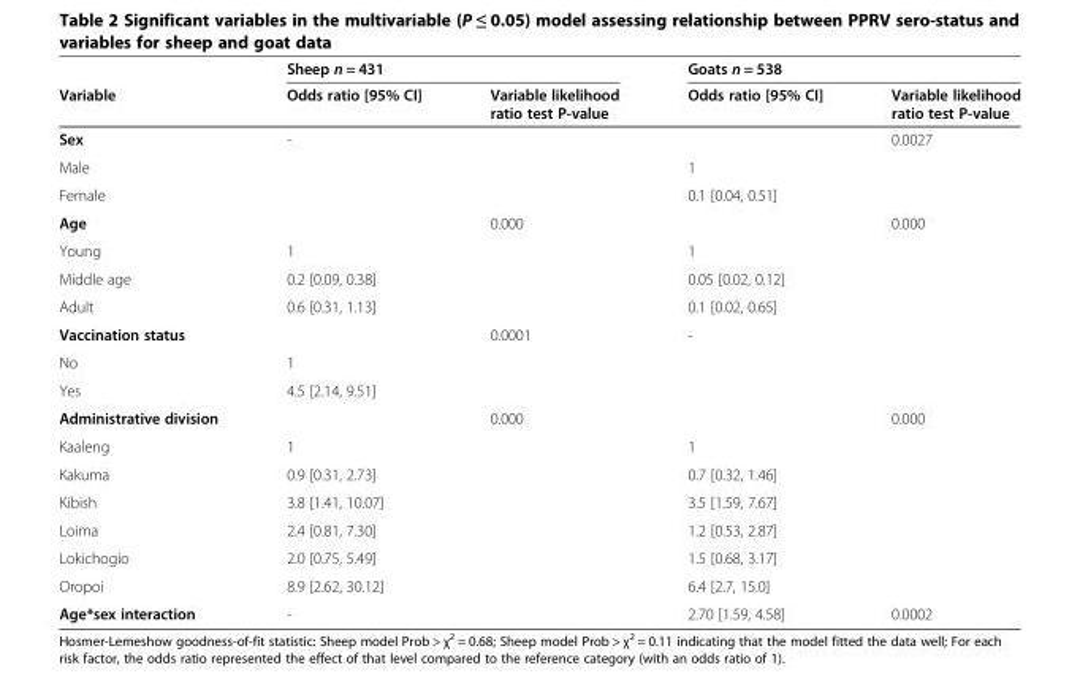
<table><thead><tr><td rowspan="2">Variable</td><td colspan="2">Sheep n = 431</td><td colspan="2">Goats n = 538</td></tr><tr><td>Odds ratio [95% CI]</td><td>Variable likelihood ratio test P-value</td><td>Odds ratio [95% CI]</td><td>Variable likelihood ratio test P-value</td></tr></thead><tbody><tr><td>Sex</td><td>-</td><td></td><td></td><td>0.0027</td></tr><tr><td>Male</td><td></td><td></td><td>1</td><td></td></tr><tr><td>Female</td><td></td><td></td><td>0.1 [0.04, 0.51]</td><td></td></tr><tr><td>Age</td><td></td><td>0.000</td><td></td><td>0.000</td></tr><tr><td>Young</td><td>1</td><td></td><td>1</td><td></td></tr><tr><td>Middle age</td><td>0.2 [0.09, 0.38]</td><td></td><td>0.05 [0.02, 0.12]</td><td></td></tr><tr><td>Adult</td><td>0.6 [0.31, 1.13]</td><td></td><td>0.1 [0.02, 0.65]</td><td></td></tr><tr><td>Vaccination status</td><td></td><td>0.0001</td><td>-</td><td></td></tr><tr><td>No</td><td>1</td><td></td><td></td><td></td></tr><tr><td>Yes</td><td>4.5 [2.14, 9.51]</td><td></td><td></td><td></td></tr><tr><td>Administrative division</td><td></td><td>0.000</td><td></td><td>0.000</td></tr><tr><td>Kaaleng</td><td>1</td><td></td><td>1</td><td></td></tr><tr><td>Kakuma</td><td>0.9 [0.31, 2.73]</td><td></td><td>0.7 [0.32, 1.46]</td><td></td></tr><tr><td>Kibish</td><td>3.8 [1.41, 10.07]</td><td></td><td>3.5 [1.59, 7.67]</td><td></td></tr><tr><td>Loima</td><td>2.4 [0.81, 7.30]</td><td></td><td>1.2 [0.53, 2.87]</td><td></td></tr><tr><td>Lokichogio</td><td>2.0 [0.75, 5.49]</td><td></td><td>1.5 [0.68, 3.17]</td><td></td></tr><tr><td>Oropoi</td><td>8.9 [2.62, 30.12]</td><td></td><td>6.4 [2.7, 15.0]</td><td></td></tr><tr><td>Age*sex interaction</td><td>-</td><td></td><td>2.70 [1.59, 4.58]</td><td>0.0002</td></tr></tbody></table>